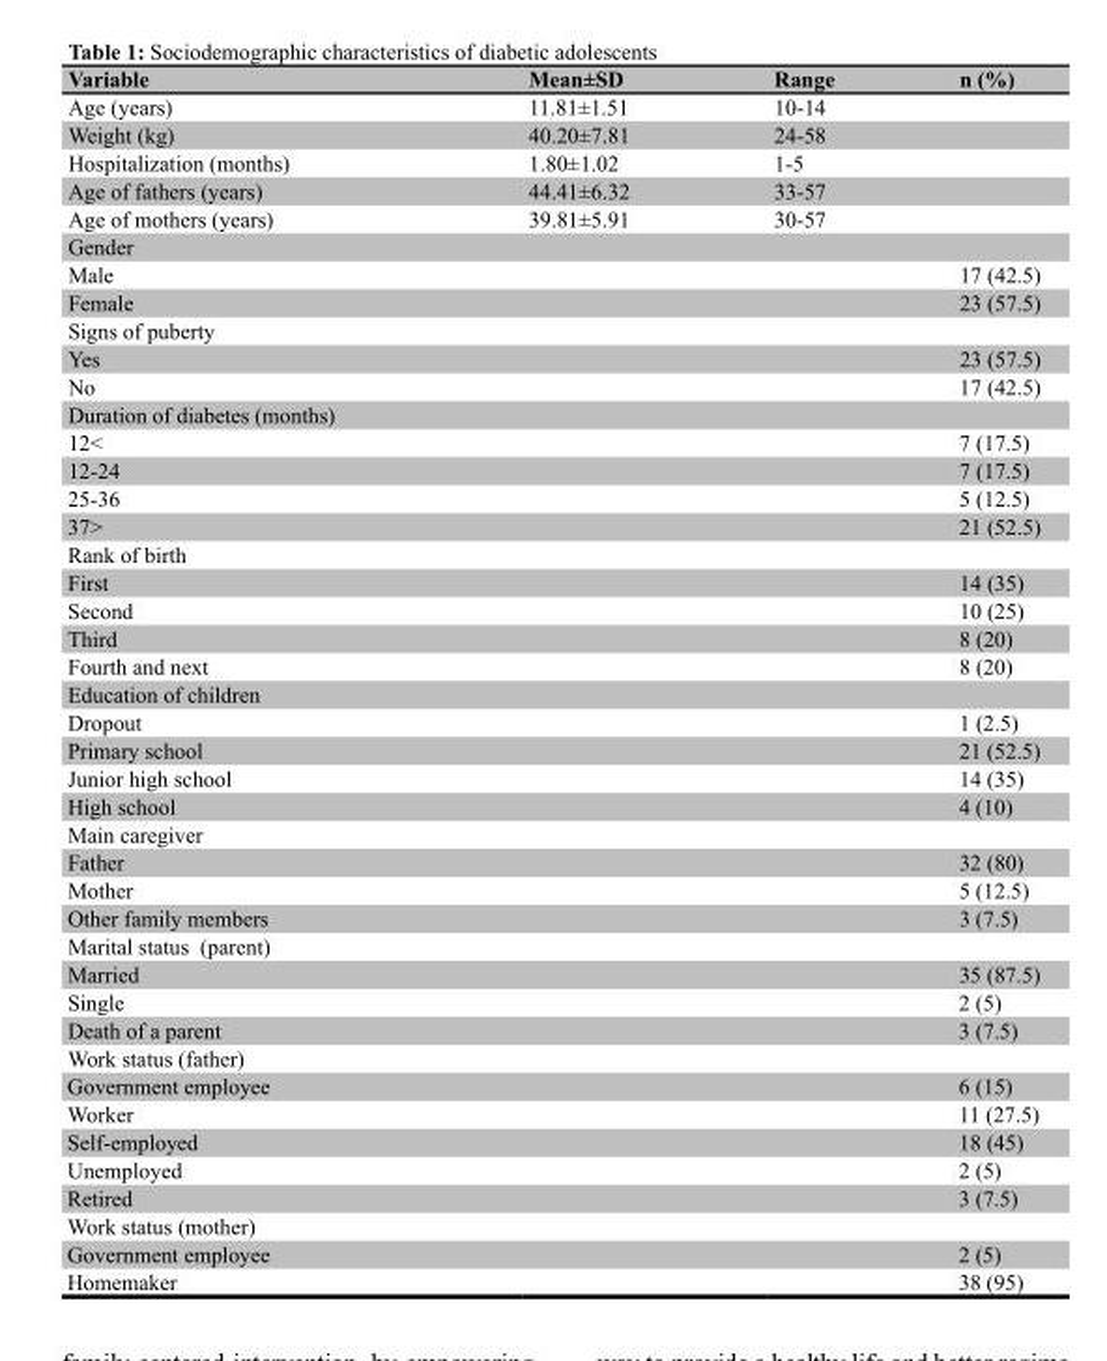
<table><thead><tr><td>Variable</td><td>Mean±SD</td><td>Range</td><td>n (%)</td></tr></thead><tbody><tr><td>Age (years)</td><td>11.81±1.51</td><td>10-14</td><td></td></tr><tr><td>Weight (kg)</td><td>40.20±7.81</td><td>24-58</td><td></td></tr><tr><td>Hospitalization (months)</td><td>1.80±1.02</td><td>1-5</td><td></td></tr><tr><td>Age of fathers (years)</td><td>44.41±6.32</td><td>33-57</td><td></td></tr><tr><td>Age of mothers (years)</td><td>39.81±5.91</td><td>30-57</td><td></td></tr><tr><td colspan="4">Gender</td></tr><tr><td>Male</td><td></td><td></td><td>17 (42.5)</td></tr><tr><td>Female</td><td></td><td></td><td>23 (57.5)</td></tr><tr><td colspan="4">Signs of puberty</td></tr><tr><td>Yes</td><td></td><td></td><td>23 (57.5)</td></tr><tr><td>No</td><td></td><td></td><td>17 (42.5)</td></tr><tr><td colspan="4">Duration of diabetes (months)</td></tr><tr><td>12&lt;</td><td></td><td></td><td>7 (17.5)</td></tr><tr><td>12-24</td><td></td><td></td><td>7 (17.5)</td></tr><tr><td>25-36</td><td></td><td></td><td>5 (12.5)</td></tr><tr><td>37&lt;</td><td></td><td></td><td>21 (52.5)</td></tr><tr><td colspan="4">Rank of birth</td></tr><tr><td>First</td><td></td><td></td><td>14 (35)</td></tr><tr><td>Second</td><td></td><td></td><td>10 (25)</td></tr><tr><td>Third</td><td></td><td></td><td>8 (20)</td></tr><tr><td>Fourth and next</td><td></td><td></td><td>8 (20)</td></tr><tr><td colspan="4">Education of children</td></tr><tr><td>Dropout</td><td></td><td></td><td>1 (2.5)</td></tr><tr><td>Primary school</td><td></td><td></td><td>21 (52.5)</td></tr><tr><td>Junior high school</td><td></td><td></td><td>14 (35)</td></tr><tr><td>High school</td><td></td><td></td><td>4 (10)</td></tr><tr><td colspan="4">Main caregiver</td></tr><tr><td>Father</td><td></td><td></td><td>32 (80)</td></tr><tr><td>Mother</td><td></td><td></td><td>5 (12.5)</td></tr><tr><td>Other family members</td><td></td><td></td><td>3 (7.5)</td></tr><tr><td colspan="4">Marital status (parent)</td></tr><tr><td>Married</td><td></td><td></td><td>35 (87.5)</td></tr><tr><td>Single</td><td></td><td></td><td>2 (5)</td></tr><tr><td>Death of a parent</td><td></td><td></td><td>3 (7.5)</td></tr><tr><td colspan="4">Work status (father)</td></tr><tr><td>Government employee</td><td></td><td></td><td>6 (15)</td></tr><tr><td>Worker</td><td></td><td></td><td>11 (27.5)</td></tr><tr><td>Self-employed</td><td></td><td></td><td>18 (45)</td></tr><tr><td>Unemployed</td><td></td><td></td><td>2 (5)</td></tr><tr><td>Retired</td><td></td><td></td><td>3 (7.5)</td></tr><tr><td colspan="4">Work status (mother)</td></tr><tr><td>Government employee</td><td></td><td></td><td>2 (5)</td></tr><tr><td>Homemaker</td><td></td><td></td><td>38 (95)</td></tr></tbody></table>